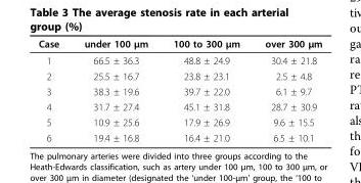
<table><thead><tr><td>Case</td><td>under 100 μm</td><td>100 to 300 μm</td><td>over 300 μm</td></tr></thead><tbody><tr><td>1</td><td>66.5 ± 36.3</td><td>48.8 ± 24.9</td><td>30.4 ± 21.8</td></tr><tr><td>2</td><td>25.5 ± 16.7</td><td>23.8 ± 23.1</td><td>2.5 ± 4.8</td></tr><tr><td>3</td><td>38.3 ± 19.6</td><td>39.7 ± 22.0</td><td>6.1 ± 9.7</td></tr><tr><td>4</td><td>31.7 ± 27.4</td><td>45.1 ± 31.8</td><td>28.7 ± 30.9</td></tr><tr><td>5</td><td>10.9 ± 25.6</td><td>17.9 ± 26.9</td><td>9.6 ± 15.5</td></tr><tr><td>6</td><td>19.4 ± 16.8</td><td>16.4 ± 21.0</td><td>6.5 ± 10.1</td></tr></tbody></table>